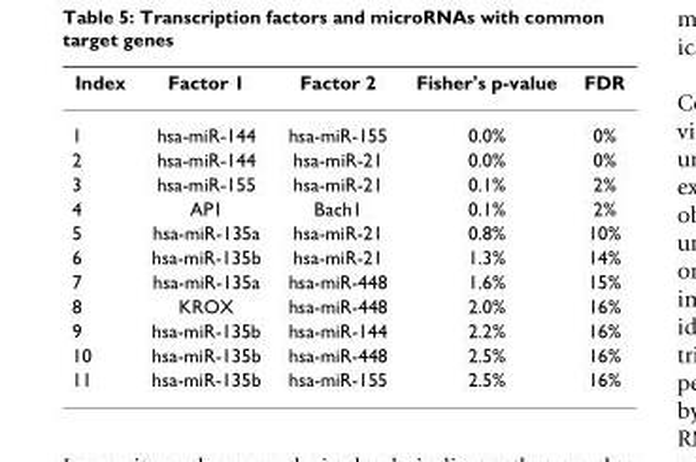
<table><thead><tr><td>Index</td><td>Factor 1</td><td>Factor 2</td><td>Fisher&#x27;s p-value</td><td>FDR</td></tr></thead><tbody><tr><td>1</td><td>hsa-miR-144</td><td>hsa-miR-155</td><td>0.0%</td><td>0%</td></tr><tr><td>2</td><td>hsa-miR-144</td><td>hsa-miR-21</td><td>0.0%</td><td>0%</td></tr><tr><td>3</td><td>hsa-miR-155</td><td>hsa-miR-21</td><td>0.1%</td><td>2%</td></tr><tr><td>4</td><td>AP1</td><td>Bach1</td><td>0.1%</td><td>2%</td></tr><tr><td>5</td><td>hsa-miR-135a</td><td>hsa-miR-21</td><td>0.8%</td><td>10%</td></tr><tr><td>6</td><td>hsa-miR-135b</td><td>hsa-miR-21</td><td>1.3%</td><td>14%</td></tr><tr><td>7</td><td>hsa-miR-135a</td><td>hsa-miR-448</td><td>1.6%</td><td>15%</td></tr><tr><td>8</td><td>KROX</td><td>hsa-miR-448</td><td>2.0%</td><td>16%</td></tr><tr><td>9</td><td>hsa-miR-135b</td><td>hsa-miR-144</td><td>2.2%</td><td>16%</td></tr><tr><td>10</td><td>hsa-miR-135b</td><td>hsa-miR-448</td><td>2.5%</td><td>16%</td></tr><tr><td>11</td><td>hsa-miR-135b</td><td>hsa-miR-155</td><td>2.5%</td><td>16%</td></tr></tbody></table>